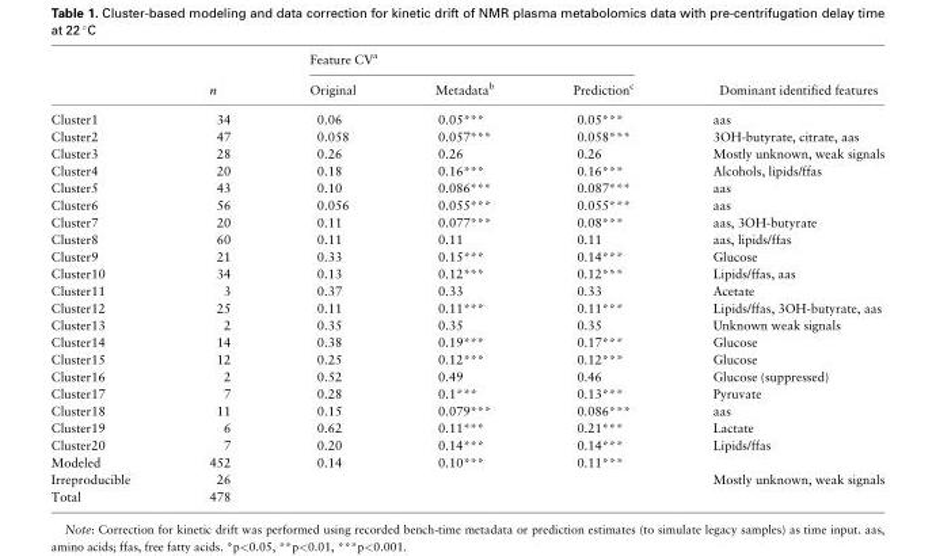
<table><thead><tr><td rowspan="2"></td><td rowspan="2">n</td><td colspan="3">Feature CV<sup>a</sup></td><td rowspan="2">Dominant identified features</td></tr><tr><td>Original</td><td>Metadata<sup>b</sup></td><td>Prediction<sup>c</sup></td></tr></thead><tbody><tr><td>Cluster1</td><td>34</td><td>0.06</td><td>0.05***</td><td>0.05***</td><td>aas</td></tr><tr><td>Cluster2</td><td>47</td><td>0.058</td><td>0.057***</td><td>0.058***</td><td>3OH-butyrate, citrate, aas</td></tr><tr><td>Cluster3</td><td>28</td><td>0.26</td><td>0.26</td><td>0.26</td><td>Mostly unknown, weak signals</td></tr><tr><td>Cluster4</td><td>20</td><td>0.18</td><td>0.16***</td><td>0.16***</td><td>Alcohols, lipids/ffas</td></tr><tr><td>Cluster5</td><td>43</td><td>0.10</td><td>0.086***</td><td>0.087***</td><td>aas</td></tr><tr><td>Cluster6</td><td>56</td><td>0.056</td><td>0.055***</td><td>0.055***</td><td>aas</td></tr><tr><td>Cluster7</td><td>20</td><td>0.11</td><td>0.077***</td><td>0.08***</td><td>aas, 3OH-butyrate</td></tr><tr><td>Cluster8</td><td>60</td><td>0.11</td><td>0.11</td><td>0.11</td><td>aas, lipids/ffas</td></tr><tr><td>Cluster9</td><td>21</td><td>0.33</td><td>0.15***</td><td>0.14***</td><td>Glucose</td></tr><tr><td>Cluster10</td><td>34</td><td>0.13</td><td>0.12***</td><td>0.12***</td><td>Lipids/ffas, aas</td></tr><tr><td>Cluster11</td><td>3</td><td>0.37</td><td>0.33</td><td>0.33</td><td>Acetate</td></tr><tr><td>Cluster12</td><td>25</td><td>0.11</td><td>0.11***</td><td>0.11***</td><td>Lipids/ffas, 3OH-butyrate, aas</td></tr><tr><td>Cluster13</td><td>2</td><td>0.35</td><td>0.35</td><td>0.35</td><td>Unknown weak signals</td></tr><tr><td>Cluster14</td><td>14</td><td>0.38</td><td>0.19***</td><td>0.17***</td><td>Glucose</td></tr><tr><td>Cluster15</td><td>12</td><td>0.25</td><td>0.12***</td><td>0.12***</td><td>Glucose</td></tr><tr><td>Cluster16</td><td>2</td><td>0.52</td><td>0.49</td><td>0.46</td><td>Glucose (suppressed)</td></tr><tr><td>Cluster17</td><td>7</td><td>0.28</td><td>0.1***</td><td>0.13***</td><td>Pyruvate</td></tr><tr><td>Cluster18</td><td>11</td><td>0.15</td><td>0.079***</td><td>0.086***</td><td>aas</td></tr><tr><td>Cluster19</td><td>6</td><td>0.62</td><td>0.11***</td><td>0.21***</td><td>Lactate</td></tr><tr><td>Cluster20</td><td>7</td><td>0.20</td><td>0.14***</td><td>0.14***</td><td>Lipids/ffas</td></tr><tr><td>Modeled</td><td>452</td><td>0.14</td><td>0.10***</td><td>0.11***</td><td></td></tr><tr><td>Irreproducible</td><td>26</td><td></td><td></td><td></td><td>Mostly unknown, weak signals</td></tr><tr><td>Total</td><td>478</td><td></td><td></td><td></td><td></td></tr></tbody></table>